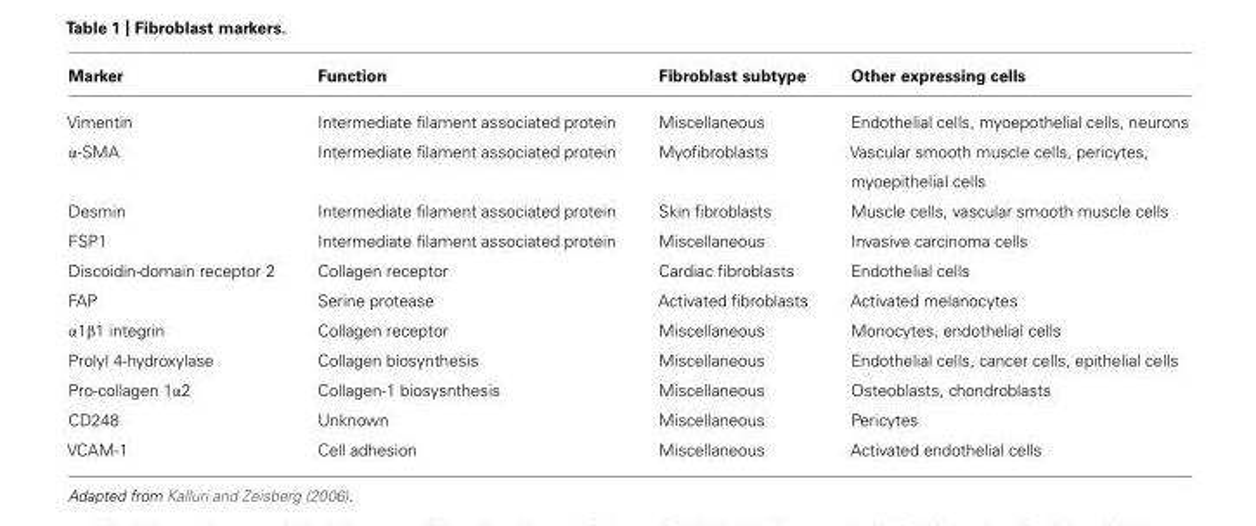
<table><thead><tr><td>Marker</td><td>Function</td><td>Fibroblast subtype</td><td>Other expressing cells</td></tr></thead><tbody><tr><td>Vimentin</td><td>Intermediate filament associated protein</td><td>Miscellaneous</td><td>Endothelial cells, myoepothelial cells, neurons</td></tr><tr><td>α-SMA</td><td>Intermediate filament associated protein</td><td>Myofibroblasts</td><td>Vascular smooth muscle cells, pericytes, myoepithelial cells</td></tr><tr><td>Desmin</td><td>Intermediate filament associated protein</td><td>Skin fibroblasts</td><td>Muscle cells, vascular smooth muscle cells</td></tr><tr><td>FSP1</td><td>Intermediate filament associated protein</td><td>Miscellaneous</td><td>Invasive carcinoma cells</td></tr><tr><td>Discoidin-domain receptor 2</td><td>Collagen receptor</td><td>Cardiac fibroblasts</td><td>Endothelial cells</td></tr><tr><td>FAP</td><td>Serine protease</td><td>Activated fibroblasts</td><td>Activated melanocytes</td></tr><tr><td>α1β1 integrin</td><td>Collagen receptor</td><td>Miscellaneous</td><td>Monocytes, endothelial cells</td></tr><tr><td>Prolyl 4-hydroxylase</td><td>Collagen biosynthesis</td><td>Miscellaneous</td><td>Endothelial cells, cancer cells, epithelial cells</td></tr><tr><td>Pro-collagen 1α2</td><td>Collagen-1 biosysnthesis</td><td>Miscellaneous</td><td>Osteoblasts, chondroblasts</td></tr><tr><td>CD248</td><td>Unknown</td><td>Miscellaneous</td><td>Pericytes</td></tr><tr><td>VCAM-1</td><td>Cell adhesion</td><td>Miscellaneous</td><td>Activated endothelial cells</td></tr></tbody></table>